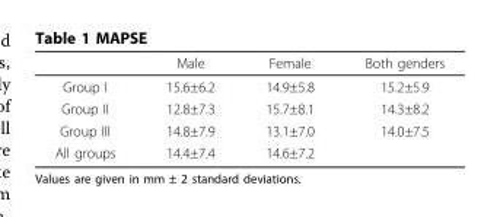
<table><thead><tr><td></td><td>Male</td><td>Female</td><td>Both genders</td></tr></thead><tbody><tr><td>Group I</td><td>15.6±6.2</td><td>14.9±5.8</td><td>15.2±5.9</td></tr><tr><td>Group II</td><td>12.8±7.3</td><td>15.7±8.1</td><td>14.3±8.2</td></tr><tr><td>Group III</td><td>14.8±7.9</td><td>13.1±7.0</td><td>14.0±7.5</td></tr><tr><td>All groups</td><td>14.4±7.4</td><td>14.6±7.2</td><td></td></tr></tbody></table>